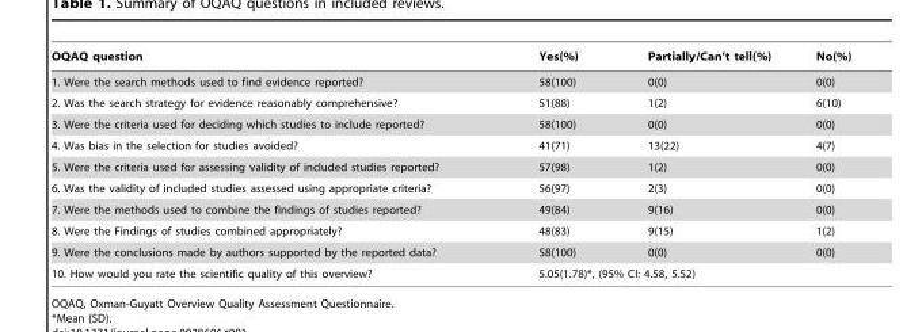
<table><thead><tr><td>OQAQ question</td><td>Yes(%)</td><td>Partially/Can’t tell(%)</td><td>No(%)</td></tr></thead><tbody><tr><td>1. Were the search methods used to find evidence reported?</td><td>58(100)</td><td>0(0)</td><td>0(0)</td></tr><tr><td>2. Was the search strategy for evidence reasonably comprehensive?</td><td>51(88)</td><td>1(2)</td><td>6(10)</td></tr><tr><td>3. Were the criteria used for deciding which studies to include reported?</td><td>58(100)</td><td>0(0)</td><td>0(0)</td></tr><tr><td>4. Was bias in the selection for studies avoided?</td><td>41(71)</td><td>13(22)</td><td>4(7)</td></tr><tr><td>5. Were the criteria used for assessing validity of included studies reported?</td><td>57(98)</td><td>1(2)</td><td>0(0)</td></tr><tr><td>6. Was the validity of included studies assessed using appropriate criteria?</td><td>56(97)</td><td>2(3)</td><td>0(0)</td></tr><tr><td>7. Were the methods used to combine the findings of studies reported?</td><td>49(84)</td><td>9(16)</td><td>0(0)</td></tr><tr><td>8. Were the Findings of studies combined appropriately?</td><td>48(83)</td><td>9(15)</td><td>1(2)</td></tr><tr><td>9. Were the conclusions made by authors supported by the reported data?</td><td>58(100)</td><td>0(0)</td><td>0(0)</td></tr><tr><td>10. How would you rate the scientific quality of this overview?</td><td colspan="3">5.05(1.78)*, (95% CI: 4.58, 5.52)</td></tr></tbody></table>